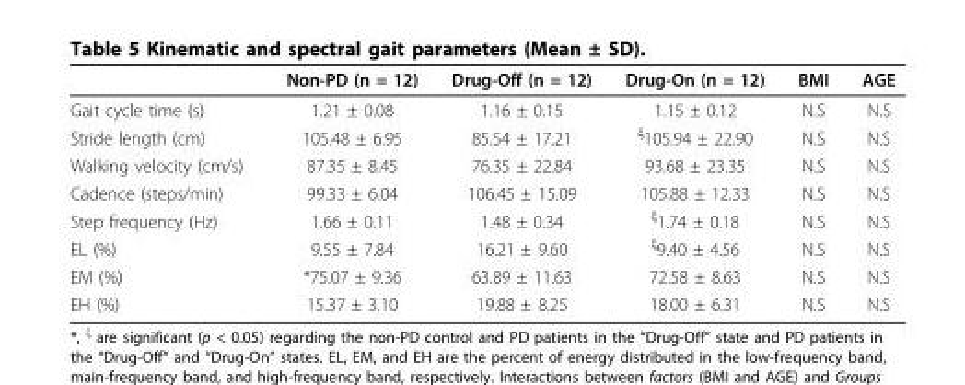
<table><thead><tr><td></td><td>Non-PD (n = 12)</td><td>Drug-Off (n = 12)</td><td>Drug-On (n = 12)</td><td>BMI</td><td>AGE</td></tr></thead><tbody><tr><td>Gait cycle time (s)</td><td>1.21 ± 0.08</td><td>1.16 ± 0.15</td><td>1.15 ± 0.12</td><td>N.S</td><td>N.S</td></tr><tr><td>Stride length (cm)</td><td>105.48 ± 6.95</td><td>85.54 ± 17.21</td><td><sup>ξ</sup>105.94 ± 22.90</td><td>N.S</td><td>N.S</td></tr><tr><td>Walking velocity (cm/s)</td><td>87.35 ± 8.45</td><td>76.35 ± 22.84</td><td>93.68 ± 23.35</td><td>N.S</td><td>N.S</td></tr><tr><td>Cadence (steps/min)</td><td>99.33 ± 6.04</td><td>106.45 ± 15.09</td><td>105.88 ± 12.33</td><td>N.S</td><td>N.S</td></tr><tr><td>Step frequency (Hz)</td><td>1.66 ± 0.11</td><td>1.48 ± 0.34</td><td><sup>ξ</sup>1.74 ± 0.18</td><td>N.S</td><td>N.S</td></tr><tr><td>EL (%)</td><td>9.55 ± 7.84</td><td>16.21 ± 9.60</td><td><sup>ξ</sup>9.40 ± 4.56</td><td>N.S</td><td>N.S</td></tr><tr><td>EM (%)</td><td>*75.07 ± 9.36</td><td>63.89 ± 11.63</td><td>72.58 ± 8.63</td><td>N.S</td><td>N.S</td></tr><tr><td>EH (%)</td><td>15.37 ± 3.10</td><td>19.88 ± 8.25</td><td>18.00 ± 6.31</td><td>N.S</td><td>N.S</td></tr></tbody></table>